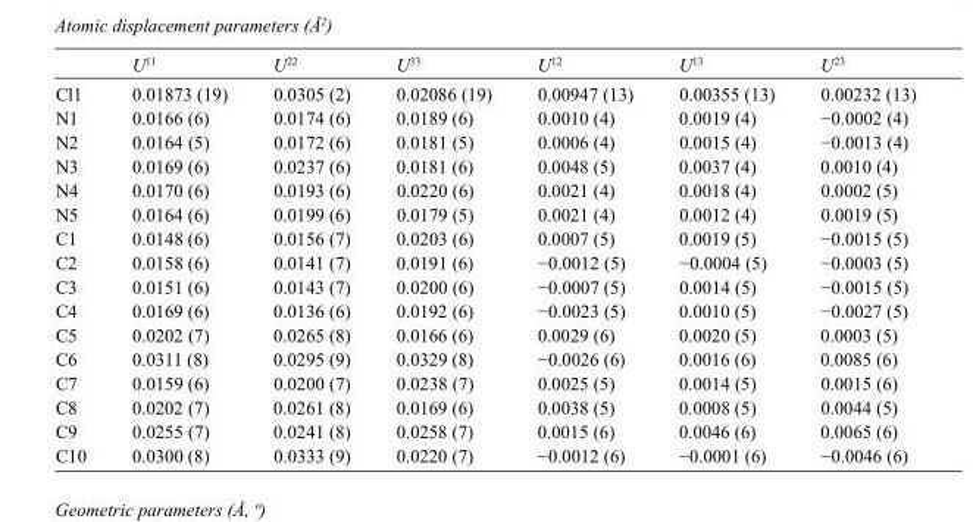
<table><thead><tr><td></td><td>U<sup>11</sup></td><td>U<sup>22</sup></td><td>U<sup>33</sup></td><td>U<sup>12</sup></td><td>U<sup>13</sup></td><td>U<sup>23</sup></td></tr></thead><tbody><tr><td>Cl1</td><td>0.01873 (19)</td><td>0.0305 (2)</td><td>0.02086 (19)</td><td>0.00947 (13)</td><td>0.00355 (13)</td><td>0.00232 (13)</td></tr><tr><td>N1</td><td>0.0166 (6)</td><td>0.0174 (6)</td><td>0.0189 (6)</td><td>0.0010 (4)</td><td>0.0019 (4)</td><td>−0.0002 (4)</td></tr><tr><td>N2</td><td>0.0164 (5)</td><td>0.0172 (6)</td><td>0.0181 (5)</td><td>0.0006 (4)</td><td>0.0015 (4)</td><td>−0.0013 (4)</td></tr><tr><td>N3</td><td>0.0169 (6)</td><td>0.0237 (6)</td><td>0.0181 (6)</td><td>0.0048 (5)</td><td>0.0037 (4)</td><td>0.0010 (4)</td></tr><tr><td>N4</td><td>0.0170 (6)</td><td>0.0193 (6)</td><td>0.0220 (6)</td><td>0.0021 (4)</td><td>0.0018 (4)</td><td>0.0002 (5)</td></tr><tr><td>N5</td><td>0.0164 (6)</td><td>0.0199 (6)</td><td>0.0179 (5)</td><td>0.0021 (4)</td><td>0.0012 (4)</td><td>0.0019 (5)</td></tr><tr><td>C1</td><td>0.0148 (6)</td><td>0.0156 (7)</td><td>0.0203 (6)</td><td>0.0007 (5)</td><td>0.0019 (5)</td><td>−0.0015 (5)</td></tr><tr><td>C2</td><td>0.0158 (6)</td><td>0.0141 (7)</td><td>0.0191 (6)</td><td>−0.0012 (5)</td><td>−0.0004 (5)</td><td>−0.0003 (5)</td></tr><tr><td>C3</td><td>0.0151 (6)</td><td>0.0143 (7)</td><td>0.0200 (6)</td><td>−0.0007 (5)</td><td>0.0014 (5)</td><td>−0.0015 (5)</td></tr><tr><td>C4</td><td>0.0169 (6)</td><td>0.0136 (6)</td><td>0.0192 (6)</td><td>−0.0023 (5)</td><td>0.0010 (5)</td><td>−0.0027 (5)</td></tr><tr><td>C5</td><td>0.0202 (7)</td><td>0.0265 (8)</td><td>0.0166 (6)</td><td>0.0029 (6)</td><td>0.0020 (5)</td><td>0.0003 (5)</td></tr><tr><td>C6</td><td>0.0311 (8)</td><td>0.0295 (9)</td><td>0.0329 (8)</td><td>−0.0026 (6)</td><td>0.0016 (6)</td><td>0.0085 (6)</td></tr><tr><td>C7</td><td>0.0159 (6)</td><td>0.0200 (7)</td><td>0.0238 (7)</td><td>0.0025 (5)</td><td>0.0014 (5)</td><td>0.0015 (6)</td></tr><tr><td>C8</td><td>0.0202 (7)</td><td>0.0261 (8)</td><td>0.0169 (6)</td><td>0.0038 (5)</td><td>0.0008 (5)</td><td>0.0044 (5)</td></tr><tr><td>C9</td><td>0.0255 (7)</td><td>0.0241 (8)</td><td>0.0258 (7)</td><td>0.0015 (6)</td><td>0.0046 (6)</td><td>0.0065 (6)</td></tr><tr><td>C10</td><td>0.0300 (8)</td><td>0.0333 (9)</td><td>0.0220 (7)</td><td>−0.0012 (6)</td><td>−0.0001 (6)</td><td>−0.0046 (6)</td></tr></tbody></table>